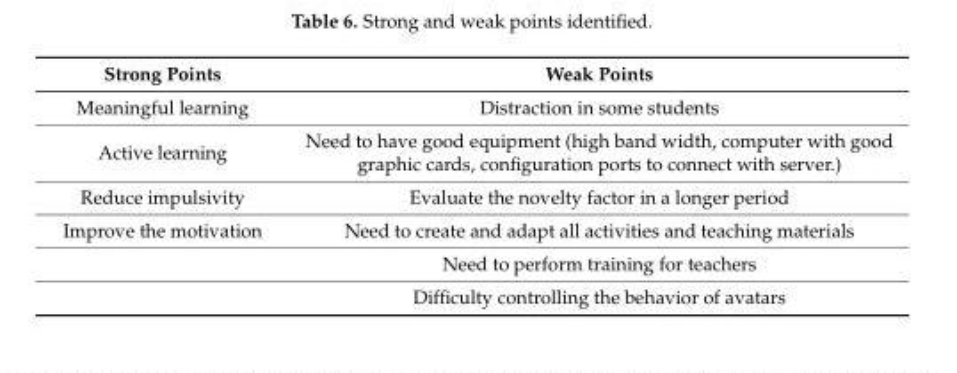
<table><thead><tr><td>Strong Points</td><td>Weak Points</td></tr></thead><tbody><tr><td>Meaningful learning</td><td>Distraction in some students</td></tr><tr><td>Active learning</td><td>Need to have good equipment (high band width, computer with good graphic cards, configuration ports to connect with server.)</td></tr><tr><td>Reduce impulsivity</td><td>Evaluate the novelty factor in a longer period</td></tr><tr><td rowspan="3">Improve the motivation</td><td>Need to create and adapt all activities and teaching materials</td></tr><tr><td>Need to perform training for teachers</td></tr><tr><td>Difficulty controlling the behavior of avatars</td></tr></tbody></table>